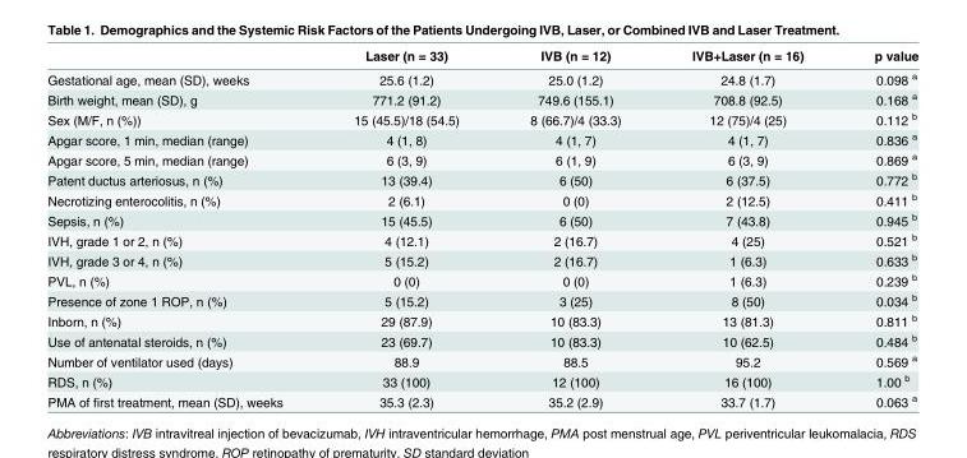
<table><thead><tr><td></td><td>Laser (n = 33)</td><td>IVB (n = 12)</td><td>IVB+Laser (n = 16)</td><td>p value</td></tr></thead><tbody><tr><td>Gestational age, mean (SD), weeks</td><td>25.6 (1.2)</td><td>25.0 (1.2)</td><td>24.8 (1.7)</td><td>0.098 <sup>a</sup></td></tr><tr><td>Birth weight, mean (SD), g</td><td>771.2 (91.2)</td><td>749.6 (155.1)</td><td>708.8 (92.5)</td><td>0.168 <sup>a</sup></td></tr><tr><td>Sex (M/F, n (%))</td><td>15 (45.5)/18 (54.5)</td><td>8 (66.7)/4 (33.3)</td><td>12 (75)/4 (25)</td><td>0.112 <sup>b</sup></td></tr><tr><td>Apgar score, 1 min, median (range)</td><td>4 (1, 8)</td><td>4 (1, 7)</td><td>4 (1, 7)</td><td>0.836 <sup>a</sup></td></tr><tr><td>Apgar score, 5 min, median (range)</td><td>6 (3, 9)</td><td>6 (1, 9)</td><td>6 (3, 9)</td><td>0.869 <sup>a</sup></td></tr><tr><td>Patent ductus arteriosus, n (%)</td><td>13 (39.4)</td><td>6 (50)</td><td>6 (37.5)</td><td>0.772 <sup>b</sup></td></tr><tr><td>Necrotizing enterocolitis, n (%)</td><td>2 (6.1)</td><td>0 (0)</td><td>2 (12.5)</td><td>0.411 <sup>b</sup></td></tr><tr><td>Sepsis, n (%)</td><td>15 (45.5)</td><td>6 (50)</td><td>7 (43.8)</td><td>0.945 <sup>b</sup></td></tr><tr><td>IVH, grade 1 or 2, n (%)</td><td>4 (12.1)</td><td>2 (16.7)</td><td>4 (25)</td><td>0.521 <sup>b</sup></td></tr><tr><td>IVH, grade 3 or 4, n (%)</td><td>5 (15.2)</td><td>2 (16.7)</td><td>1 (6.3)</td><td>0.633 <sup>b</sup></td></tr><tr><td>PVL, n (%)</td><td>0 (0)</td><td>0 (0)</td><td>1 (6.3)</td><td>0.239 <sup>b</sup></td></tr><tr><td>Presence of zone 1 ROP, n (%)</td><td>5 (15.2)</td><td>3 (25)</td><td>8 (50)</td><td>0.034 <sup>b</sup></td></tr><tr><td>Inborn, n (%)</td><td>29 (87.9)</td><td>10 (83.3)</td><td>13 (81.3)</td><td>0.811 <sup>b</sup></td></tr><tr><td>Use of antenatal steroids, n (%)</td><td>23 (69.7)</td><td>10 (83.3)</td><td>10 (62.5)</td><td>0.484 <sup>b</sup></td></tr><tr><td>Number of ventilator used (days)</td><td>88.9</td><td>88.5</td><td>95.2</td><td>0.569 <sup>a</sup></td></tr><tr><td>RDS, n (%)</td><td>33 (100)</td><td>12 (100)</td><td>16 (100)</td><td>1.00 <sup>b</sup></td></tr><tr><td>PMA of first treatment, mean (SD), weeks</td><td>35.3 (2.3)</td><td>35.2 (2.9)</td><td>33.7 (1.7)</td><td>0.063 <sup>a</sup></td></tr></tbody></table>